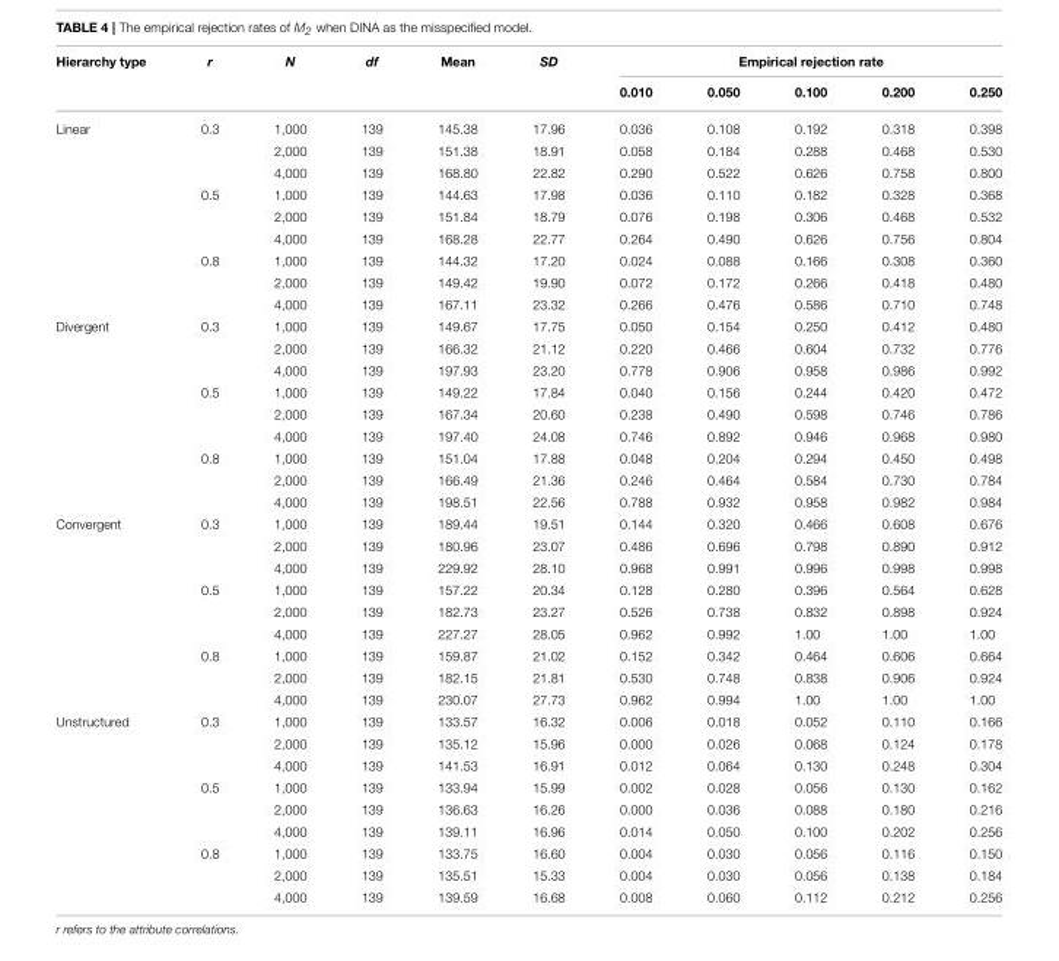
<table><thead><tr><td rowspan="2">Hierarchy type</td><td rowspan="2">r</td><td rowspan="2">N</td><td rowspan="2">df</td><td rowspan="2">Mean</td><td rowspan="2">SD</td><td colspan="5">Empirical rejection rate</td></tr><tr><td>0.010</td><td>0.050</td><td>0.100</td><td>0.200</td><td>0.250</td></tr></thead><tbody><tr><td rowspan="9">Linear</td><td>0.3</td><td>1,000</td><td>139</td><td>145.38</td><td>17.96</td><td>0.036</td><td>0.108</td><td>0.192</td><td>0.318</td><td>0.398</td></tr><tr><td></td><td>2,000</td><td>139</td><td>151.38</td><td>18.91</td><td>0.058</td><td>0.184</td><td>0.288</td><td>0.468</td><td>0.530</td></tr><tr><td></td><td>4,000</td><td>139</td><td>168.80</td><td>22.82</td><td>0.290</td><td>0.522</td><td>0.626</td><td>0.758</td><td>0.800</td></tr><tr><td>0.5</td><td>1,000</td><td>139</td><td>144.63</td><td>17.98</td><td>0.036</td><td>0.110</td><td>0.182</td><td>0.328</td><td>0.368</td></tr><tr><td></td><td>2,000</td><td>139</td><td>151.84</td><td>18.79</td><td>0.076</td><td>0.198</td><td>0.306</td><td>0.468</td><td>0.532</td></tr><tr><td></td><td>4,000</td><td>139</td><td>168.28</td><td>22.77</td><td>0.264</td><td>0.490</td><td>0.626</td><td>0.756</td><td>0.804</td></tr><tr><td>0.8</td><td>1,000</td><td>139</td><td>144.32</td><td>17.20</td><td>0.024</td><td>0.088</td><td>0.166</td><td>0.308</td><td>0.360</td></tr><tr><td></td><td>2,000</td><td>139</td><td>149.42</td><td>19.90</td><td>0.072</td><td>0.172</td><td>0.266</td><td>0.418</td><td>0.480</td></tr><tr><td></td><td>4,000</td><td>139</td><td>167.11</td><td>23.32</td><td>0.266</td><td>0.476</td><td>0.586</td><td>0.710</td><td>0.748</td></tr><tr><td rowspan="9">Divergent</td><td>0.3</td><td>1,000</td><td>139</td><td>149.67</td><td>17.75</td><td>0.050</td><td>0.154</td><td>0.250</td><td>0.412</td><td>0.480</td></tr><tr><td></td><td>2,000</td><td>139</td><td>166.32</td><td>21.12</td><td>0.220</td><td>0.466</td><td>0.604</td><td>0.732</td><td>0.776</td></tr><tr><td></td><td>4,000</td><td>139</td><td>197.93</td><td>23.20</td><td>0.778</td><td>0.906</td><td>0.958</td><td>0.986</td><td>0.992</td></tr><tr><td>0.5</td><td>1,000</td><td>139</td><td>149.22</td><td>17.84</td><td>0.040</td><td>0.156</td><td>0.244</td><td>0.420</td><td>0.472</td></tr><tr><td></td><td>2,000</td><td>139</td><td>167.34</td><td>20.60</td><td>0.238</td><td>0.490</td><td>0.598</td><td>0.746</td><td>0.786</td></tr><tr><td></td><td>4,000</td><td>139</td><td>197.40</td><td>24.08</td><td>0.746</td><td>0.892</td><td>0.946</td><td>0.968</td><td>0.980</td></tr><tr><td>0.8</td><td>1,000</td><td>139</td><td>151.04</td><td>17.88</td><td>0.048</td><td>0.204</td><td>0.294</td><td>0.450</td><td>0.498</td></tr><tr><td></td><td>2,000</td><td>139</td><td>166.49</td><td>21.36</td><td>0.246</td><td>0.464</td><td>0.584</td><td>0.730</td><td>0.784</td></tr><tr><td></td><td>4,000</td><td>139</td><td>198.51</td><td>22.56</td><td>0.788</td><td>0.932</td><td>0.958</td><td>0.982</td><td>0.984</td></tr><tr><td rowspan="9">Convergent</td><td>0.3</td><td>1,000</td><td>139</td><td>189.44</td><td>19.51</td><td>0.144</td><td>0.320</td><td>0.466</td><td>0.608</td><td>0.676</td></tr><tr><td></td><td>2,000</td><td>139</td><td>180.96</td><td>23.07</td><td>0.486</td><td>0.696</td><td>0.798</td><td>0.890</td><td>0.912</td></tr><tr><td></td><td>4,000</td><td>139</td><td>229.92</td><td>28.10</td><td>0.968</td><td>0.991</td><td>0.996</td><td>0.998</td><td>0.998</td></tr><tr><td>0.5</td><td>1,000</td><td>139</td><td>157.22</td><td>20.34</td><td>0.128</td><td>0.280</td><td>0.396</td><td>0.564</td><td>0.628</td></tr><tr><td></td><td>2,000</td><td>139</td><td>182.73</td><td>23.27</td><td>0.526</td><td>0.738</td><td>0.832</td><td>0.898</td><td>0.924</td></tr><tr><td></td><td>4,000</td><td>139</td><td>227.27</td><td>28.05</td><td>0.962</td><td>0.992</td><td>1.00</td><td>1.00</td><td>1.00</td></tr><tr><td>0.8</td><td>1,000</td><td>139</td><td>159.87</td><td>21.02</td><td>0.152</td><td>0.342</td><td>0.464</td><td>0.606</td><td>0.664</td></tr><tr><td></td><td>2,000</td><td>139</td><td>182.15</td><td>21.81</td><td>0.530</td><td>0.748</td><td>0.838</td><td>0.906</td><td>0.924</td></tr><tr><td></td><td>4,000</td><td>139</td><td>230.07</td><td>27.73</td><td>0.962</td><td>0.994</td><td>1.00</td><td>1.00</td><td>1.00</td></tr><tr><td rowspan="9">Unstructured</td><td>0.3</td><td>1,000</td><td>139</td><td>133.57</td><td>16.32</td><td>0.006</td><td>0.018</td><td>0.052</td><td>0.110</td><td>0.166</td></tr><tr><td></td><td>2,000</td><td>139</td><td>135.12</td><td>15.96</td><td>0.000</td><td>0.026</td><td>0.068</td><td>0.124</td><td>0.178</td></tr><tr><td></td><td>4,000</td><td>139</td><td>141.53</td><td>16.91</td><td>0.012</td><td>0.064</td><td>0.130</td><td>0.248</td><td>0.304</td></tr><tr><td>0.5</td><td>1,000</td><td>139</td><td>133.94</td><td>15.99</td><td>0.002</td><td>0.028</td><td>0.056</td><td>0.130</td><td>0.162</td></tr><tr><td></td><td>2,000</td><td>139</td><td>136.63</td><td>16.26</td><td>0.000</td><td>0.036</td><td>0.088</td><td>0.180</td><td>0.216</td></tr><tr><td></td><td>4,000</td><td>139</td><td>139.11</td><td>16.96</td><td>0.014</td><td>0.050</td><td>0.100</td><td>0.202</td><td>0.256</td></tr><tr><td>0.8</td><td>1,000</td><td>139</td><td>133.75</td><td>16.60</td><td>0.004</td><td>0.030</td><td>0.056</td><td>0.116</td><td>0.150</td></tr><tr><td></td><td>2,000</td><td>139</td><td>135.51</td><td>15.33</td><td>0.004</td><td>0.030</td><td>0.056</td><td>0.138</td><td>0.184</td></tr><tr><td></td><td>4,000</td><td>139</td><td>139.59</td><td>16.68</td><td>0.008</td><td>0.060</td><td>0.112</td><td>0.212</td><td>0.256</td></tr></tbody></table>